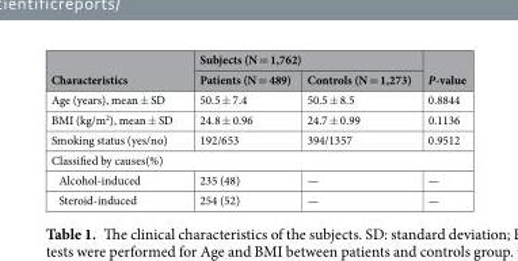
<table><thead><tr><td rowspan="2">Characteristics</td><td colspan="2">Subjects (N = 1,762)</td><td rowspan="2">P-value</td></tr><tr><td>Patients (N = 489)</td><td>Controls (N = 1,273)</td></tr></thead><tbody><tr><td>Age (years), mean ± SD</td><td>50.5 ± 7.4</td><td>50.5 ± 8.5</td><td>0.8844</td></tr><tr><td>BMI (kg/m<sup>2</sup>), mean ± SD</td><td>24.8 ± 0.96</td><td>24.7 ± 0.99</td><td>0.1136</td></tr><tr><td>Smoking status (yes/no)</td><td>192/653</td><td>394/1357</td><td>0.9512</td></tr><tr><td colspan="4">Classified by causes(%)</td></tr><tr><td>Alcohol-induced</td><td>235 (48)</td><td>—</td><td>—</td></tr><tr><td>Steroid-induced</td><td>254 (52)</td><td>—</td><td>—</td></tr></tbody></table>